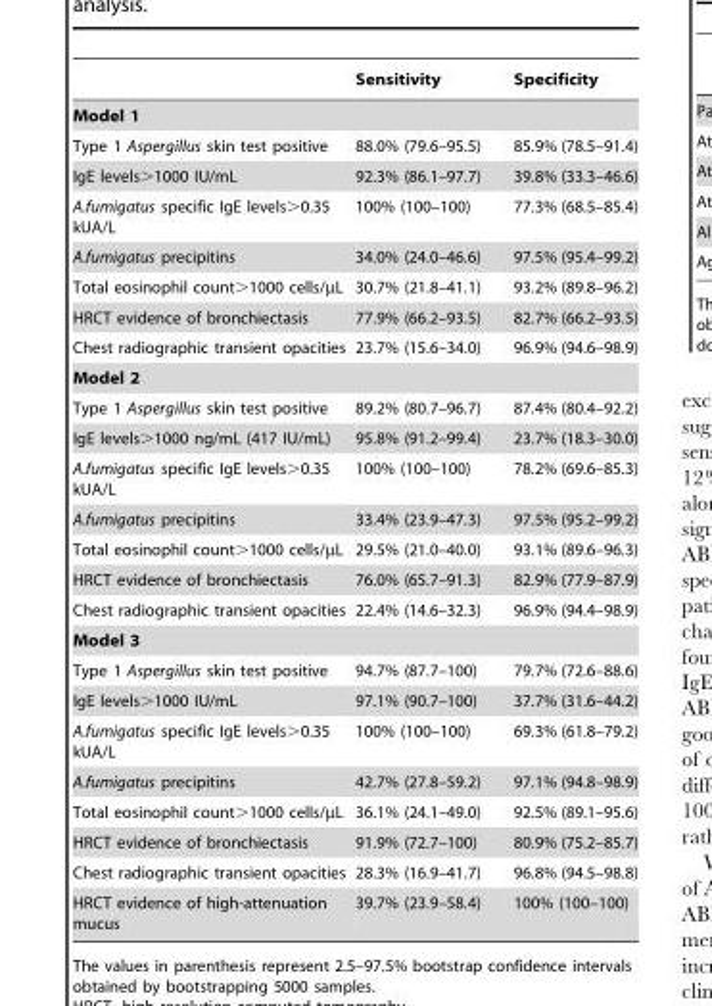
<table><thead><tr><td></td><td>Sensitivity</td><td>Specificity</td></tr></thead><tbody><tr><td colspan="3">Model 1</td></tr><tr><td>Type 1 Aspergillus skin test positive</td><td>88.0% (79.6–95.5)</td><td>85.9% (78.5–91.4)</td></tr><tr><td>IgE levels&gt;1000 IU/mL</td><td>92.3% (86.1–97.7)</td><td>39.8% (33.3–46.6)</td></tr><tr><td>A.fumigatus specific IgE levels&gt;0.35 kUA/L</td><td>100% (100–100)</td><td>77.3% (68.5–85.4)</td></tr><tr><td>A.fumigatus precipitins</td><td>34.0% (24.0–46.6)</td><td>97.5% (95.4–99.2)</td></tr><tr><td>Total eosinophil count&gt;1000 cells/µL</td><td>30.7% (21.8–41.1)</td><td>93.2% (89.8–96.2)</td></tr><tr><td>HRCT evidence of bronchiectasis</td><td>77.9% (66.2–93.5)</td><td>82.7% (66.2–93.5)</td></tr><tr><td>Chest radiographic transient opacities</td><td>23.7% (15.6–34.0)</td><td>96.9% (94.6–98.9)</td></tr><tr><td colspan="3">Model 2</td></tr><tr><td>Type 1 Aspergillus skin test positive</td><td>89.2% (80.7–96.7)</td><td>87.4% (80.4–92.2)</td></tr><tr><td>IgE levels&gt;1000 ng/mL (417 IU/mL)</td><td>95.8% (91.2–99.4)</td><td>23.7% (18.3–30.0)</td></tr><tr><td>A.fumigatus specific IgE levels&gt;0.35 kUA/L</td><td>100% (100–100)</td><td>78.2% (69.6–85.3)</td></tr><tr><td>A.fumigatus precipitins</td><td>33.4% (23.9–47.3)</td><td>97.5% (95.2–99.2)</td></tr><tr><td>Total eosinophil count&gt;1000 cells/µL</td><td>29.5% (21.0–40.0)</td><td>93.1% (89.6–96.3)</td></tr><tr><td>HRCT evidence of bronchiectasis</td><td>76.0% (65.7–91.3)</td><td>82.9% (77.9–87.9)</td></tr><tr><td>Chest radiographic transient opacities</td><td>22.4% (14.6–32.3)</td><td>96.9% (94.4–98.9)</td></tr><tr><td colspan="3">Model 3</td></tr><tr><td>Type 1 Aspergillus skin test positive</td><td>94.7% (87.7–100)</td><td>79.7% (72.6–88.6)</td></tr><tr><td>IgE levels&gt;1000 IU/mL</td><td>97.1% (90.7–100)</td><td>37.7% (31.6–44.2)</td></tr><tr><td>A.fumigatus specific IgE levels&gt;0.35 kUA/L</td><td>100% (100–100)</td><td>69.3% (61.8–79.2)</td></tr><tr><td>A.fumigatus precipitins</td><td>42.7% (27.8–59.2)</td><td>97.1% (94.8–98.9)</td></tr><tr><td>Total eosinophil count&gt;1000 cells/µL</td><td>36.1% (24.1–49.0)</td><td>92.5% (89.1–95.6)</td></tr><tr><td>HRCT evidence of bronchiectasis</td><td>91.9% (72.7–100)</td><td>80.9% (75.2–85.7)</td></tr><tr><td>Chest radiographic transient opacities</td><td>28.3% (16.9–41.7)</td><td>96.8% (94.5–98.8)</td></tr><tr><td>HRCT evidence of high-attenuation mucus</td><td>39.7% (23.9–58.4)</td><td>100% (100–100)</td></tr></tbody></table>